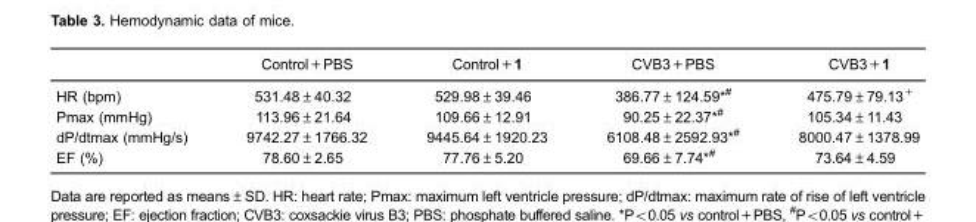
<table><thead><tr><td></td><td>Control+PBS</td><td>Control+1</td><td>CVB3+PBS</td><td>CVB3+1</td></tr></thead><tbody><tr><td>HR (bpm)</td><td>531.48±40.32</td><td>529.98±39.46</td><td>386.77±124.59*<sup>#</sup></td><td>475.79±79.13<sup>+</sup></td></tr><tr><td>Pmax (mmHg)</td><td>113.96±21.64</td><td>109.66±12.91</td><td>90.25±22.37*<sup>#</sup></td><td>105.34±11.43</td></tr><tr><td>dP/dtmax (mmHg/s)</td><td>9742.27±1766.32</td><td>9445.64±1920.23</td><td>6108.48±2592.93*<sup>#</sup></td><td>8000.47±1378.99</td></tr><tr><td>EF (%)</td><td>78.60±2.65</td><td>77.76±5.20</td><td>69.66±7.74*<sup>#</sup></td><td>73.64±4.59</td></tr></tbody></table>